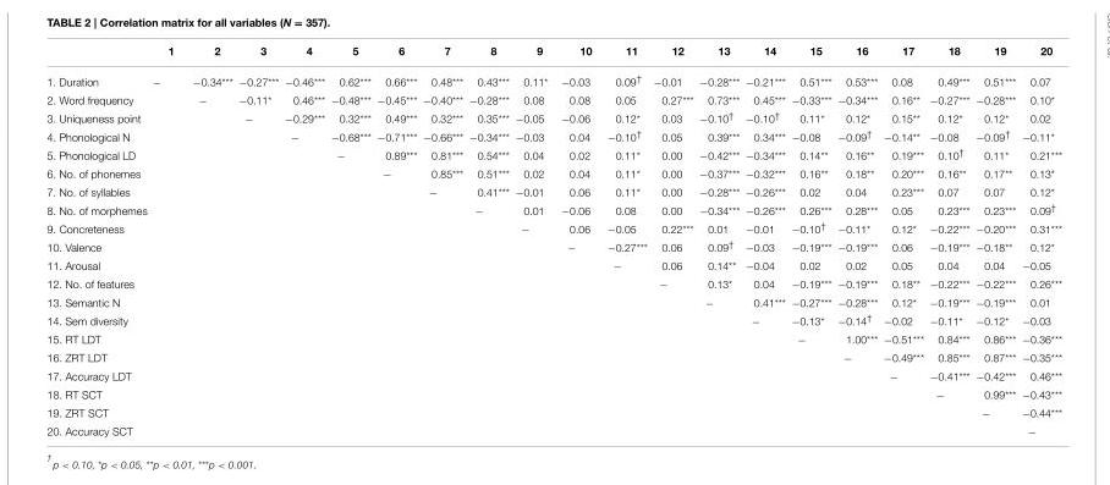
<table><thead><tr><td></td><td>1</td><td>2</td><td>3</td><td>4</td><td>5</td><td>6</td><td>7</td><td>8</td><td>9</td><td>10</td><td>11</td><td>12</td><td>13</td><td>14</td><td>15</td><td>16</td><td>17</td><td>18</td><td>19</td><td>20</td></tr></thead><tbody><tr><td>1. Duration</td><td>−</td><td>−0.34***</td><td>−0.27***</td><td>−0.46***</td><td>0.62***</td><td>0.66***</td><td>0.48***</td><td>0.43***</td><td>0.11*</td><td>−0.03</td><td>0.09<sup>†</sup></td><td>−0.01</td><td>−0.28***</td><td>−0.21***</td><td>0.51***</td><td>0.53***</td><td>0.08</td><td>0.49***</td><td>0.51***</td><td>0.07</td></tr><tr><td>2. Word frequency</td><td></td><td>−</td><td>−0.11*</td><td>0.46***</td><td>−0.48***</td><td>−0.45***</td><td>−0.40***</td><td>−0.28***</td><td>0.08</td><td>0.08</td><td>0.05</td><td>0.27***</td><td>0.73***</td><td>0.45***</td><td>−0.33***</td><td>−0.34***</td><td>0.16**</td><td>−0.27***</td><td>−0.28***</td><td>0.10*</td></tr><tr><td>3. Uniqueness point</td><td></td><td></td><td>−</td><td>−0.29***</td><td>0.32***</td><td>0.49***</td><td>0.32***</td><td>0.35***</td><td>−0.05</td><td>−0.06</td><td>0.12*</td><td>0.03</td><td>−0.10<sup>†</sup></td><td>−0.10<sup>†</sup></td><td>0.11*</td><td>0.12*</td><td>0.15**</td><td>0.12*</td><td>0.12*</td><td>0.02</td></tr><tr><td>4. Phonological N</td><td></td><td></td><td></td><td>−</td><td>−0.68***</td><td>−0.71***</td><td>−0.66***</td><td>−0.34***</td><td>−0.03</td><td>0.04</td><td>−0.10<sup>†</sup></td><td>0.05</td><td>0.39***</td><td>0.34***</td><td>−0.08</td><td>−0.09<sup>†</sup></td><td>−0.14**</td><td>−0.08</td><td>−0.09<sup>†</sup></td><td>−0.11*</td></tr><tr><td>5. Phonological LD</td><td></td><td></td><td></td><td></td><td>−</td><td>0.89***</td><td>0.81***</td><td>0.54***</td><td>0.04</td><td>0.02</td><td>0.11*</td><td>0.00</td><td>−0.42***</td><td>−0.34***</td><td>0.14**</td><td>0.16**</td><td>0.19***</td><td>0.10<sup>†</sup></td><td>0.11*</td><td>0.21***</td></tr><tr><td>6. No. of phonemes</td><td></td><td></td><td></td><td></td><td></td><td>−</td><td>0.85***</td><td>0.51***</td><td>0.02</td><td>0.04</td><td>0.11*</td><td>0.00</td><td>−0.37***</td><td>−0.32***</td><td>0.16**</td><td>0.18**</td><td>0.20***</td><td>0.16**</td><td>0.17**</td><td>0.13*</td></tr><tr><td>7. No. of syllables</td><td></td><td></td><td></td><td></td><td></td><td></td><td>−</td><td>0.41***</td><td>−0.01</td><td>0.06</td><td>0.11*</td><td>0.00</td><td>−0.28***</td><td>−0.26***</td><td>0.02</td><td>0.04</td><td>0.23***</td><td>0.07</td><td>0.07</td><td>0.12*</td></tr><tr><td>8. No. of morphemes</td><td></td><td></td><td></td><td></td><td></td><td></td><td></td><td>−</td><td>0.01</td><td>−0.06</td><td>0.08</td><td>0.00</td><td>−0.34***</td><td>−0.26***</td><td>0.26***</td><td>0.28***</td><td>0.05</td><td>0.23***</td><td>0.23***</td><td>0.09<sup>†</sup></td></tr><tr><td>9. Concreteness</td><td></td><td></td><td></td><td></td><td></td><td></td><td></td><td></td><td>−</td><td>0.06</td><td>−0.05</td><td>0.22***</td><td>0.01</td><td>−0.01</td><td>−0.10<sup>†</sup></td><td>−0.11*</td><td>0.12*</td><td>−0.22***</td><td>−0.20***</td><td>0.31***</td></tr><tr><td>10. Valence</td><td></td><td></td><td></td><td></td><td></td><td></td><td></td><td></td><td></td><td>−</td><td>−0.27***</td><td>0.06</td><td>0.09<sup>†</sup></td><td>−0.03</td><td>−0.19***</td><td>−0.19***</td><td>0.06</td><td>−0.19***</td><td>−0.18**</td><td>0.12*</td></tr><tr><td>11. Arousal</td><td></td><td></td><td></td><td></td><td></td><td></td><td></td><td></td><td></td><td></td><td>−</td><td>0.06</td><td>0.14**</td><td>−0.04</td><td>0.02</td><td>0.02</td><td>0.05</td><td>0.04</td><td>0.04</td><td>−0.05</td></tr><tr><td>12. No. of features</td><td></td><td></td><td></td><td></td><td></td><td></td><td></td><td></td><td></td><td></td><td></td><td>−</td><td>0.13*</td><td>0.04</td><td>−0.19***</td><td>−0.19***</td><td>0.18**</td><td>−0.22***</td><td>−0.22***</td><td>0.26***</td></tr><tr><td>13. Semantic N</td><td></td><td></td><td></td><td></td><td></td><td></td><td></td><td></td><td></td><td></td><td></td><td></td><td>−</td><td>0.41***</td><td>−0.27***</td><td>−0.28***</td><td>0.12*</td><td>−0.19***</td><td>−0.19***</td><td>0.01</td></tr><tr><td>14. Sem diversity</td><td></td><td></td><td></td><td></td><td></td><td></td><td></td><td></td><td></td><td></td><td></td><td></td><td></td><td>−</td><td>−0.13*</td><td>−0.14<sup>†</sup></td><td>−0.02</td><td>−0.11*</td><td>−0.12*</td><td>−0.03</td></tr><tr><td>15. RT LDT</td><td></td><td></td><td></td><td></td><td></td><td></td><td></td><td></td><td></td><td></td><td></td><td></td><td></td><td></td><td>−</td><td>1.00***</td><td>−0.51***</td><td>0.84***</td><td>0.86***</td><td>−0.36***</td></tr><tr><td>16. ZRT LDT</td><td></td><td></td><td></td><td></td><td></td><td></td><td></td><td></td><td></td><td></td><td></td><td></td><td></td><td></td><td></td><td>−</td><td>−0.49***</td><td>0.85***</td><td>0.87***</td><td>−0.35***</td></tr><tr><td>17. Accuracy LDT</td><td></td><td></td><td></td><td></td><td></td><td></td><td></td><td></td><td></td><td></td><td></td><td></td><td></td><td></td><td></td><td></td><td>−</td><td>−0.41***</td><td>−0.42***</td><td>0.46***</td></tr><tr><td>18. RT SCT</td><td></td><td></td><td></td><td></td><td></td><td></td><td></td><td></td><td></td><td></td><td></td><td></td><td></td><td></td><td></td><td></td><td></td><td>−</td><td>0.99***</td><td>−0.43***</td></tr><tr><td>19. ZRT SCT</td><td></td><td></td><td></td><td></td><td></td><td></td><td></td><td></td><td></td><td></td><td></td><td></td><td></td><td></td><td></td><td></td><td></td><td></td><td>−</td><td>−0.44***</td></tr><tr><td>20. Accuracy SCT</td><td></td><td></td><td></td><td></td><td></td><td></td><td></td><td></td><td></td><td></td><td></td><td></td><td></td><td></td><td></td><td></td><td></td><td></td><td></td><td>−</td></tr></tbody></table>